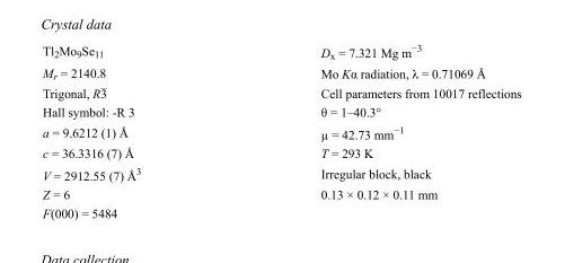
<table><tbody><tr><td>Tl<sub>2</sub>Mo<sub>9</sub>Se<sub>11</sub></td><td>D<sub>x</sub> = 7.321 Mg m<sup>−3</sup></td></tr><tr><td>M<sub>r</sub> = 2140.8</td><td>Mo Kα radiation, λ = 0.71069 Å</td></tr><tr><td>Trigonal, R3</td><td>Cell parameters from 10017 reflections</td></tr><tr><td>Hall symbol: -R 3</td><td>θ = 1–40.3°</td></tr><tr><td>a = 9.6212 (1) Å</td><td>µ = 42.73 mm<sup>−1</sup></td></tr><tr><td>c = 36.3316 (7) Å</td><td>T = 293 K</td></tr><tr><td>V = 2912.55 (7) Å<sup>3</sup></td><td>Irregular block, black</td></tr><tr><td>Z = 6</td><td>0.13 × 0.12 × 0.11 mm</td></tr><tr><td>F(000) = 5484</td><td></td></tr></tbody></table>